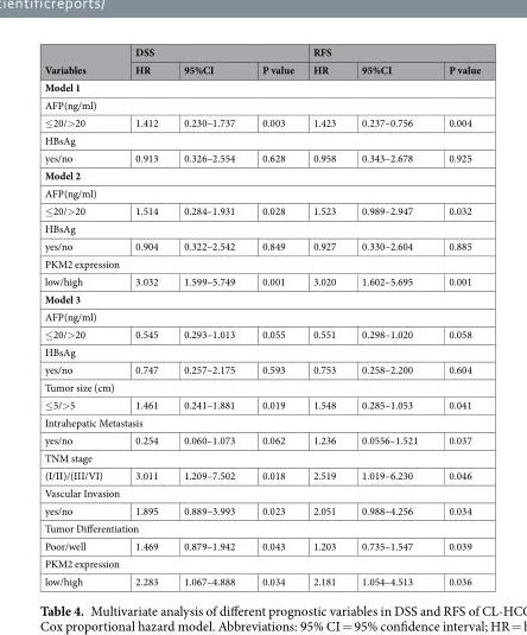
<table><thead><tr><td rowspan="2">Variables</td><td colspan="3">DSS</td><td colspan="3">RFS</td></tr><tr><td>HR</td><td>95%CI</td><td>P value</td><td>HR</td><td>95%CI</td><td>P value</td></tr></thead><tbody><tr><td colspan="7">Model 1</td></tr><tr><td colspan="7">AFP(ng/ml)</td></tr><tr><td>≤20/&gt;20</td><td>1.412</td><td>0.230–1.737</td><td>0.003</td><td>1.423</td><td>0.237–0.756</td><td>0.004</td></tr><tr><td colspan="7">HBsAg</td></tr><tr><td>yes/no</td><td>0.913</td><td>0.326–2.554</td><td>0.628</td><td>0.958</td><td>0.343–2.678</td><td>0.925</td></tr><tr><td colspan="7">Model 2</td></tr><tr><td colspan="7">AFP(ng/ml)</td></tr><tr><td>≤20/&gt;20</td><td>1.514</td><td>0.284–1.931</td><td>0.028</td><td>1.523</td><td>0.989–2.947</td><td>0.032</td></tr><tr><td colspan="7">HBsAg</td></tr><tr><td>yes/no</td><td>0.904</td><td>0.322–2.542</td><td>0.849</td><td>0.927</td><td>0.330–2.604</td><td>0.885</td></tr><tr><td colspan="7">PKM2 expression</td></tr><tr><td>low/high</td><td>3.032</td><td>1.599–5.749</td><td>0.001</td><td>3.020</td><td>1.602–5.695</td><td>0.001</td></tr><tr><td colspan="7">Model 3</td></tr><tr><td colspan="7">AFP(ng/ml)</td></tr><tr><td>≤20/&gt;20</td><td>0.545</td><td>0.293–1.013</td><td>0.055</td><td>0.551</td><td>0.298–1.020</td><td>0.058</td></tr><tr><td colspan="7">HBsAg</td></tr><tr><td>yes/no</td><td>0.747</td><td>0.257–2.175</td><td>0.593</td><td>0.753</td><td>0.258–2.200</td><td>0.604</td></tr><tr><td colspan="7">Tumor size (cm)</td></tr><tr><td>≤5/&gt;5</td><td>1.461</td><td>0.241–1.881</td><td>0.019</td><td>1.548</td><td>0.285–1.053</td><td>0.041</td></tr><tr><td colspan="7">Intrahepatic Metastasis</td></tr><tr><td>yes/no</td><td>0.254</td><td>0.060–1.073</td><td>0.062</td><td>1.236</td><td>0.0556–1.521</td><td>0.037</td></tr><tr><td colspan="7">TNM stage</td></tr><tr><td>(I/II)/(III/VI)</td><td>3.011</td><td>1.209–7.502</td><td>0.018</td><td>2.519</td><td>1.019–6.230</td><td>0.046</td></tr><tr><td colspan="7">Vascular Invasion</td></tr><tr><td>yes/no</td><td>1.895</td><td>0.889–3.993</td><td>0.023</td><td>2.051</td><td>0.988–4.256</td><td>0.034</td></tr><tr><td colspan="7">Tumor Differentiation</td></tr><tr><td>Poor/well</td><td>1.469</td><td>0.879–1.942</td><td>0.043</td><td>1.203</td><td>0.735–1.547</td><td>0.039</td></tr><tr><td colspan="7">PKM2 expression</td></tr><tr><td>low/high</td><td>2.283</td><td>1.067–4.888</td><td>0.034</td><td>2.181</td><td>1.054–4.513</td><td>0.036</td></tr></tbody></table>